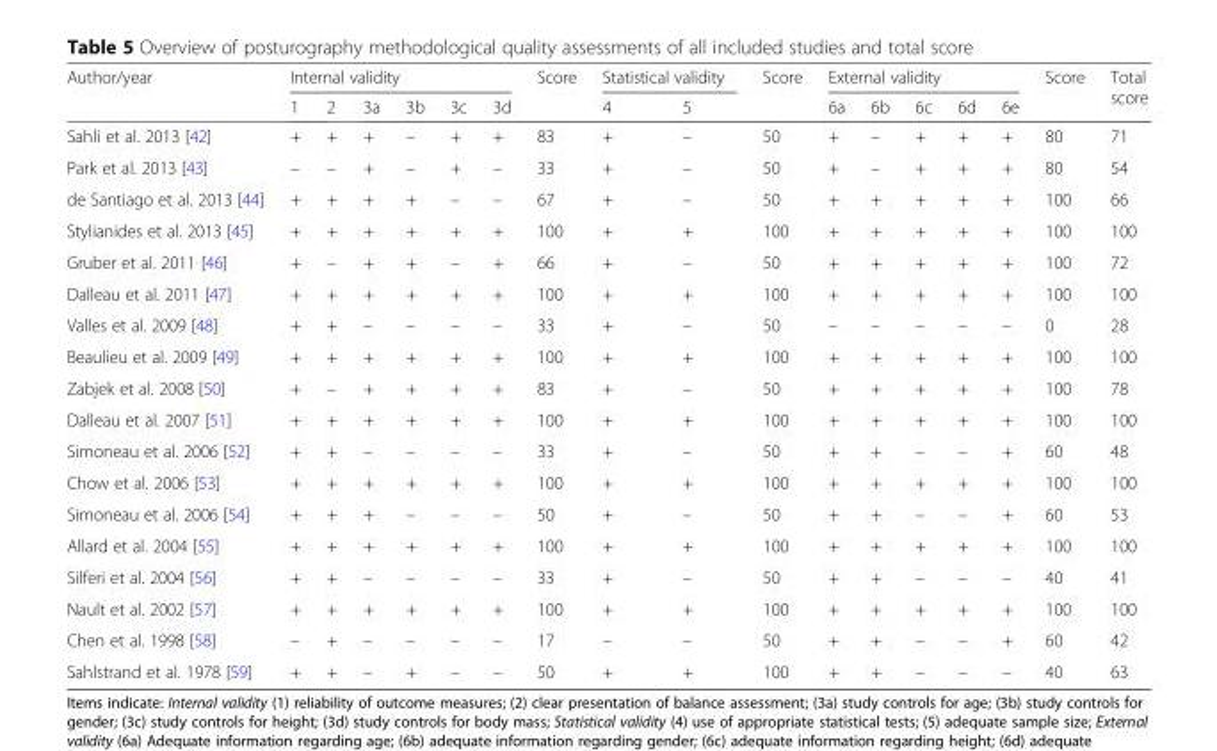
<table><thead><tr><td rowspan="2">Author/year</td><td colspan="6">Internal validity</td><td rowspan="2">Score</td><td colspan="2">Statistical validity</td><td rowspan="2">Score</td><td colspan="5">External validity</td><td rowspan="2">Score</td><td rowspan="2">Total score</td></tr><tr><td>1</td><td>2</td><td>3a</td><td>3b</td><td>3c</td><td>3d</td><td>4</td><td>5</td><td>6a</td><td>6b</td><td>6c</td><td>6d</td><td>6e</td></tr></thead><tbody><tr><td>Sahli et al. 2013 [42]</td><td>+</td><td>+</td><td>+</td><td>–</td><td>+</td><td>+</td><td>83</td><td>+</td><td>–</td><td>50</td><td>+</td><td>–</td><td>+</td><td>+</td><td>+</td><td>80</td><td>71</td></tr><tr><td>Park et al. 2013 [43]</td><td>–</td><td>–</td><td>+</td><td>–</td><td>+</td><td>–</td><td>33</td><td>+</td><td>–</td><td>50</td><td>+</td><td>–</td><td>+</td><td>+</td><td>+</td><td>80</td><td>54</td></tr><tr><td>de Santiago et al. 2013 [44]</td><td>+</td><td>+</td><td>+</td><td>+</td><td>–</td><td>–</td><td>67</td><td>+</td><td>–</td><td>50</td><td>+</td><td>+</td><td>+</td><td>+</td><td>+</td><td>100</td><td>66</td></tr><tr><td>Stylianides et al. 2013 [45]</td><td>+</td><td>+</td><td>+</td><td>+</td><td>+</td><td>+</td><td>100</td><td>+</td><td>+</td><td>100</td><td>+</td><td>+</td><td>+</td><td>+</td><td>+</td><td>100</td><td>100</td></tr><tr><td>Gruber et al. 2011 [46]</td><td>+</td><td>–</td><td>+</td><td>+</td><td>–</td><td>+</td><td>66</td><td>+</td><td>–</td><td>50</td><td>+</td><td>+</td><td>+</td><td>+</td><td>+</td><td>100</td><td>72</td></tr><tr><td>Dalleau et al. 2011 [47]</td><td>+</td><td>+</td><td>+</td><td>+</td><td>+</td><td>+</td><td>100</td><td>+</td><td>+</td><td>100</td><td>+</td><td>+</td><td>+</td><td>+</td><td>+</td><td>100</td><td>100</td></tr><tr><td>Valles et al. 2009 [48]</td><td>+</td><td>+</td><td>–</td><td>–</td><td>–</td><td>–</td><td>33</td><td>+</td><td>–</td><td>50</td><td>–</td><td>–</td><td>–</td><td>–</td><td>–</td><td>0</td><td>28</td></tr><tr><td>Beaulieu et al. 2009 [49]</td><td>+</td><td>+</td><td>+</td><td>+</td><td>+</td><td>+</td><td>100</td><td>+</td><td>+</td><td>100</td><td>+</td><td>+</td><td>+</td><td>+</td><td>+</td><td>100</td><td>100</td></tr><tr><td>Zabjek et al. 2008 [50]</td><td>+</td><td>–</td><td>+</td><td>+</td><td>+</td><td>+</td><td>83</td><td>+</td><td>–</td><td>50</td><td>+</td><td>+</td><td>+</td><td>+</td><td>+</td><td>100</td><td>78</td></tr><tr><td>Dalleau et al. 2007 [51]</td><td>+</td><td>+</td><td>+</td><td>+</td><td>+</td><td>+</td><td>100</td><td>+</td><td>+</td><td>100</td><td>+</td><td>+</td><td>+</td><td>+</td><td>+</td><td>100</td><td>100</td></tr><tr><td>Simoneau et al. 2006 [52]</td><td>+</td><td>+</td><td>–</td><td>–</td><td>–</td><td>–</td><td>33</td><td>+</td><td>–</td><td>50</td><td>+</td><td>+</td><td>–</td><td>–</td><td>+</td><td>60</td><td>48</td></tr><tr><td>Chow et al. 2006 [53]</td><td>+</td><td>+</td><td>+</td><td>+</td><td>+</td><td>+</td><td>100</td><td>+</td><td>+</td><td>100</td><td>+</td><td>+</td><td>+</td><td>+</td><td>+</td><td>100</td><td>100</td></tr><tr><td>Simoneau et al. 2006 [54]</td><td>+</td><td>+</td><td>+</td><td>–</td><td>–</td><td>–</td><td>50</td><td>+</td><td>–</td><td>50</td><td>+</td><td>+</td><td>–</td><td>–</td><td>+</td><td>60</td><td>53</td></tr><tr><td>Allard et al. 2004 [55]</td><td>+</td><td>+</td><td>+</td><td>+</td><td>+</td><td>+</td><td>100</td><td>+</td><td>+</td><td>100</td><td>+</td><td>+</td><td>+</td><td>+</td><td>+</td><td>100</td><td>100</td></tr><tr><td>Silferi et al. 2004 [56]</td><td>+</td><td>+</td><td>–</td><td>–</td><td>–</td><td>–</td><td>33</td><td>+</td><td>–</td><td>50</td><td>+</td><td>+</td><td>–</td><td>–</td><td>–</td><td>40</td><td>41</td></tr><tr><td>Nault et al. 2002 [57]</td><td>+</td><td>+</td><td>+</td><td>+</td><td>+</td><td>+</td><td>100</td><td>+</td><td>+</td><td>100</td><td>+</td><td>+</td><td>+</td><td>+</td><td>+</td><td>100</td><td>100</td></tr><tr><td>Chen et al. 1998 [58]</td><td>–</td><td>+</td><td>–</td><td>–</td><td>–</td><td>–</td><td>17</td><td>–</td><td>–</td><td>50</td><td>+</td><td>+</td><td>–</td><td>–</td><td>+</td><td>60</td><td>42</td></tr><tr><td>Sahlstrand et al. 1978 [59]</td><td>+</td><td>+</td><td>–</td><td>+</td><td>–</td><td>–</td><td>50</td><td>+</td><td>+</td><td>100</td><td>+</td><td>+</td><td>–</td><td>–</td><td>–</td><td>40</td><td>63</td></tr></tbody></table>